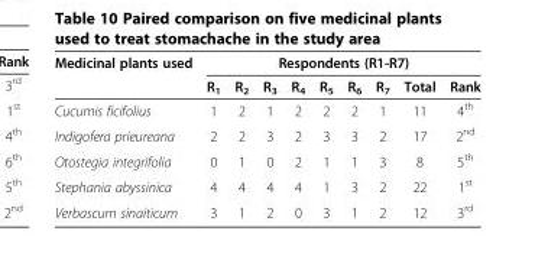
<table><thead><tr><td rowspan="2">Medicinal plants used</td><td colspan="9">Respondents (R1-R7)</td></tr><tr><td>R<sub>1</sub></td><td>R<sub>2</sub></td><td>R<sub>3</sub></td><td>R<sub>4</sub></td><td>R<sub>5</sub></td><td>R<sub>6</sub></td><td>R<sub>7</sub></td><td>Total</td><td>Rank</td></tr></thead><tbody><tr><td>Cucumis ficifolius</td><td>1</td><td>2</td><td>1</td><td>2</td><td>2</td><td>2</td><td>1</td><td>11</td><td>4<sup>th</sup></td></tr><tr><td>Indigofera prieureana</td><td>2</td><td>2</td><td>3</td><td>2</td><td>3</td><td>3</td><td>2</td><td>17</td><td>2<sup>nd</sup></td></tr><tr><td>Otostegia integrifolia</td><td>0</td><td>1</td><td>0</td><td>2</td><td>1</td><td>1</td><td>3</td><td>8</td><td>5<sup>th</sup></td></tr><tr><td>Stephania abyssinica</td><td>4</td><td>4</td><td>4</td><td>4</td><td>1</td><td>3</td><td>2</td><td>22</td><td>1<sup>st</sup></td></tr><tr><td>Verbascum sinaiticum</td><td>3</td><td>1</td><td>2</td><td>0</td><td>3</td><td>1</td><td>2</td><td>12</td><td>3<sup>rd</sup></td></tr></tbody></table>